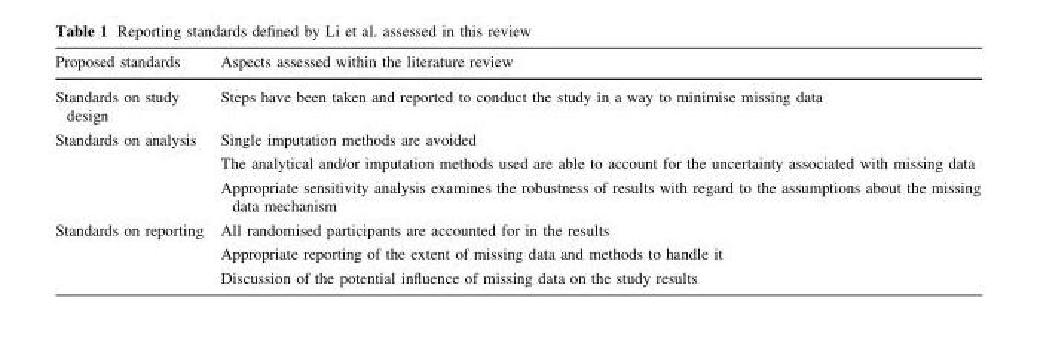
<table><thead><tr><td>Proposed standards</td><td>Aspects assessed within the literature review</td></tr></thead><tbody><tr><td>Standards on study design</td><td>Steps have been taken and reported to conduct the study in a way to minimise missing data</td></tr><tr><td>Standards on analysis</td><td>Single imputation methods are avoided The analytical and/or imputation methods used are able to account for the uncertainty associated with missing data Appropriate sensitivity analysis examines the robustness of results with regard to the assumptions about the missing data mechanism</td></tr><tr><td>Standards on reporting</td><td>All randomised participants are accounted for in the results Appropriate reporting of the extent of missing data and methods to handle it Discussion of the potential influence of missing data on the study results</td></tr></tbody></table>